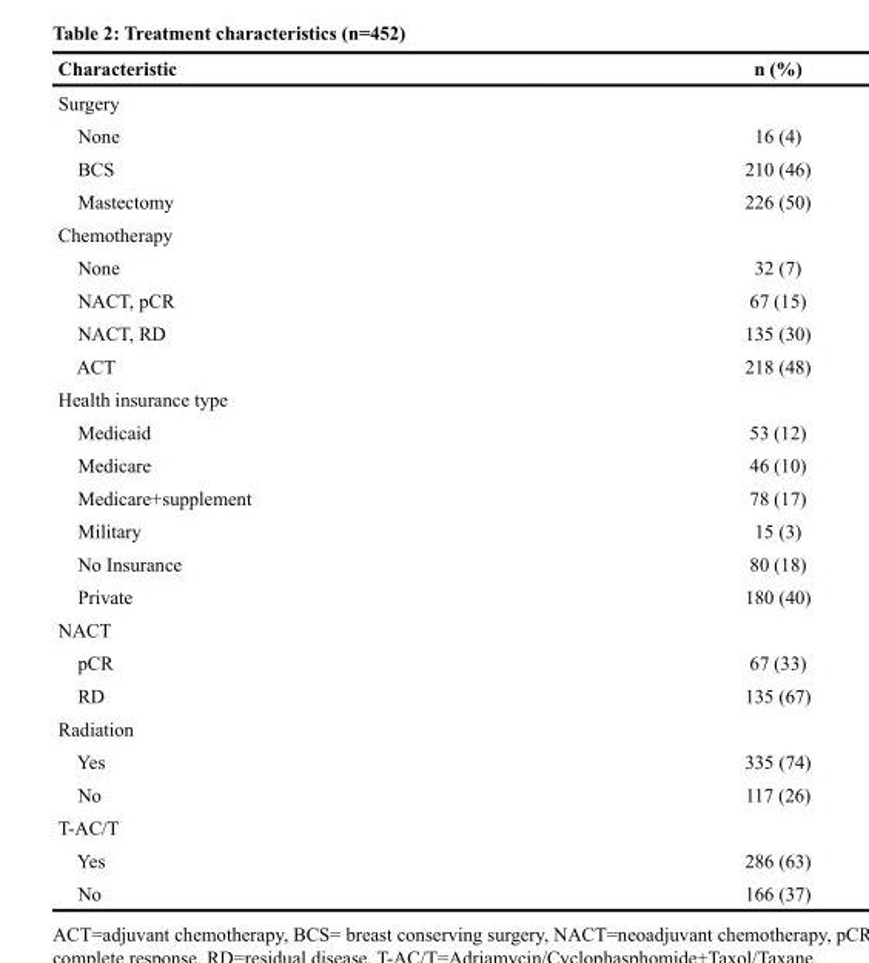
<table><thead><tr><td>Characteristic</td><td>n (%)</td></tr></thead><tbody><tr><td colspan="2">Surgery</td></tr><tr><td>None</td><td>16 (4)</td></tr><tr><td>BCS</td><td>210 (46)</td></tr><tr><td>Mastectomy</td><td>226 (50)</td></tr><tr><td colspan="2">Chemotherapy</td></tr><tr><td>None</td><td>32 (7)</td></tr><tr><td>NACT, pCR</td><td>67 (15)</td></tr><tr><td>NACT, RD</td><td>135 (30)</td></tr><tr><td>ACT</td><td>218 (48)</td></tr><tr><td colspan="2">Health insurance type</td></tr><tr><td>Medicaid</td><td>53 (12)</td></tr><tr><td>Medicare</td><td>46 (10)</td></tr><tr><td>Medicare+supplement</td><td>78 (17)</td></tr><tr><td>Military</td><td>15 (3)</td></tr><tr><td>No Insurance</td><td>80 (18)</td></tr><tr><td>Private</td><td>180 (40)</td></tr><tr><td colspan="2">NACT</td></tr><tr><td>pCR</td><td>67 (33)</td></tr><tr><td>RD</td><td>135 (67)</td></tr><tr><td colspan="2">Radiation</td></tr><tr><td>Yes</td><td>335 (74)</td></tr><tr><td>No</td><td>117 (26)</td></tr><tr><td colspan="2">T-AC/T</td></tr><tr><td>Yes</td><td>286 (63)</td></tr><tr><td>No</td><td>166 (37)</td></tr></tbody></table>